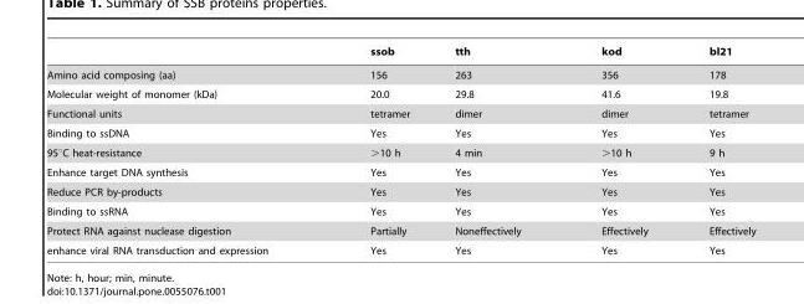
<table><thead><tr><td></td><td>ssob</td><td>tth</td><td>kod</td><td>bl21</td></tr></thead><tbody><tr><td>Amino acid composing (aa)</td><td>156</td><td>263</td><td>356</td><td>178</td></tr><tr><td>Molecular weight of monomer (kDa)</td><td>20.0</td><td>29.8</td><td>41.6</td><td>19.8</td></tr><tr><td>Functional units</td><td>tetramer</td><td>dimer</td><td>dimer</td><td>tetramer</td></tr><tr><td>Binding to ssDNA</td><td>Yes</td><td>Yes</td><td>Yes</td><td>Yes</td></tr><tr><td>95°C heat-resistance</td><td>&gt;10 h</td><td>4 min</td><td>&gt;10 h</td><td>9 h</td></tr><tr><td>Enhance target DNA synthesis</td><td>Yes</td><td>Yes</td><td>Yes</td><td>Yes</td></tr><tr><td>Reduce PCR by-products</td><td>Yes</td><td>Yes</td><td>Yes</td><td>Yes</td></tr><tr><td>Binding to ssRNA</td><td>Yes</td><td>Yes</td><td>Yes</td><td>Yes</td></tr><tr><td>Protect RNA against nuclease digestion</td><td>Partially</td><td>Noneffectively</td><td>Effectively</td><td>Effectively</td></tr><tr><td>enhance viral RNA transduction and expression</td><td>Yes</td><td>Yes</td><td>Yes</td><td>Yes</td></tr></tbody></table>